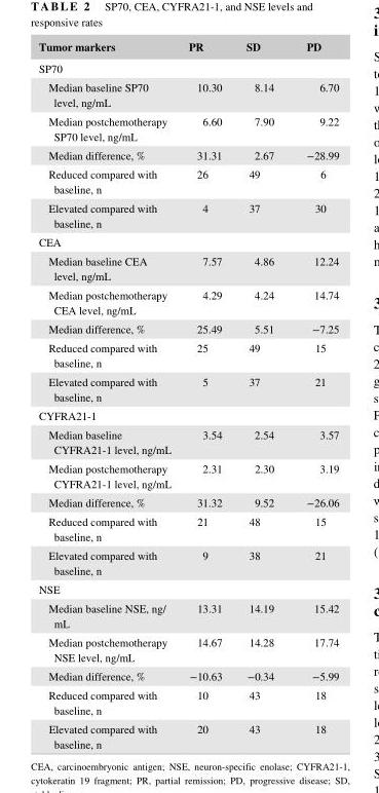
<table><thead><tr><td>Tumor markers</td><td>PR</td><td>SD</td><td>PD</td></tr></thead><tbody><tr><td colspan="4">SP70</td></tr><tr><td>Median baseline SP70 level, ng/mL</td><td>10.30</td><td>8.14</td><td>6.70</td></tr><tr><td>Median postchemotherapy SP70 level, ng/mL</td><td>6.60</td><td>7.90</td><td>9.22</td></tr><tr><td>Median difference, %</td><td>31.31</td><td>2.67</td><td>−28.99</td></tr><tr><td>Reduced compared with baseline, n</td><td>26</td><td>49</td><td>6</td></tr><tr><td>Elevated compared with baseline, n</td><td>4</td><td>37</td><td>30</td></tr><tr><td colspan="4">CEA</td></tr><tr><td>Median baseline CEA level, ng/mL</td><td>7.57</td><td>4.86</td><td>12.24</td></tr><tr><td>Median postchemotherapy CEA level, ng/mL</td><td>4.29</td><td>4.24</td><td>14.74</td></tr><tr><td>Median difference, %</td><td>25.49</td><td>5.51</td><td>−7.25</td></tr><tr><td>Reduced compared with baseline, n</td><td>25</td><td>49</td><td>15</td></tr><tr><td>Elevated compared with baseline, n</td><td>5</td><td>37</td><td>21</td></tr><tr><td colspan="4">CYFRA21- 1</td></tr><tr><td>Median baseline CYFRA21- 1 level, ng/mL</td><td>3.54</td><td>2.54</td><td>3.57</td></tr><tr><td>Median postchemotherapy CYFRA21- 1 level, ng/mL</td><td>2.31</td><td>2.30</td><td>3.19</td></tr><tr><td>Median difference, %</td><td>31.32</td><td>9.52</td><td>−26.06</td></tr><tr><td>Reduced compared with baseline, n</td><td>21</td><td>48</td><td>15</td></tr><tr><td>Elevated compared with baseline, n</td><td>9</td><td>38</td><td>21</td></tr><tr><td colspan="4">NSE</td></tr><tr><td>Median baseline NSE, ng/ mL</td><td>13.31</td><td>14.19</td><td>15.42</td></tr><tr><td>Median postchemotherapy NSE level, ng/mL</td><td>14.67</td><td>14.28</td><td>17.74</td></tr><tr><td>Median difference, %</td><td>−10.63</td><td>−0.34</td><td>−5.99</td></tr><tr><td>Reduced compared with baseline, n</td><td>10</td><td>43</td><td>18</td></tr><tr><td>Elevated compared with baseline, n</td><td>20</td><td>43</td><td>18</td></tr></tbody></table>